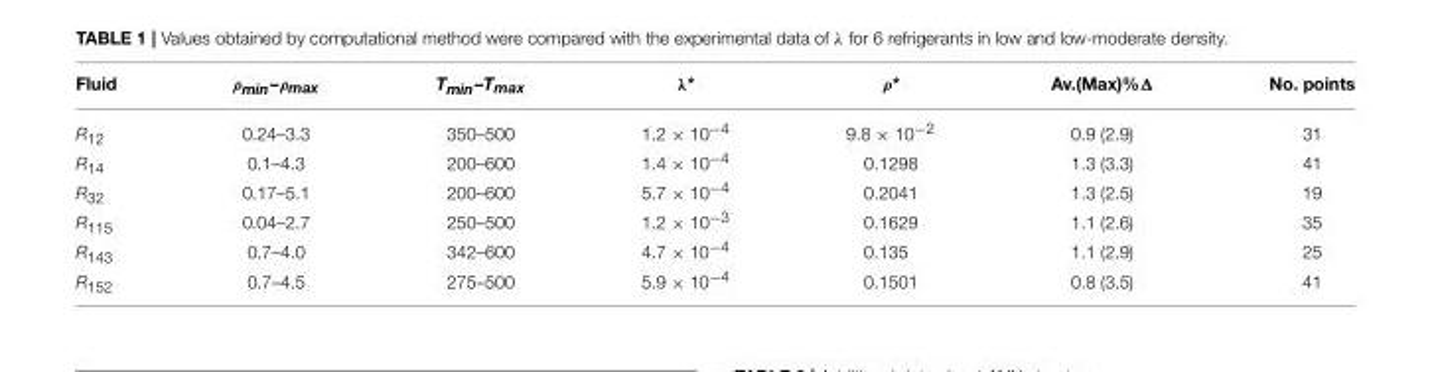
<table><thead><tr><td>Fluid</td><td>ρmin–ρmax</td><td>Tmin–Tmax</td><td>λ*</td><td>ρ*</td><td>Av.(Max)%Δ</td><td>No. points</td></tr></thead><tbody><tr><td>R<sub>12</sub></td><td>0.24–3.3</td><td>350–500</td><td>1.2 × 10<sup>−4</sup></td><td>9.8 × 10<sup>−2</sup></td><td>0.9 (2.9)</td><td>31</td></tr><tr><td>R<sub>14</sub></td><td>0.1–4.3</td><td>200–600</td><td>1.4 × 10<sup>−4</sup></td><td>0.1298</td><td>1.3 (3.3)</td><td>41</td></tr><tr><td>R<sub>32</sub></td><td>0.17–5.1</td><td>200–600</td><td>5.7 × 10<sup>−4</sup></td><td>0.2041</td><td>1.3 (2.5)</td><td>19</td></tr><tr><td>R<sub>115</sub></td><td>0.04–2.7</td><td>250–500</td><td>1.2 × 10<sup>−3</sup></td><td>0.1629</td><td>1.1 (2.6)</td><td>35</td></tr><tr><td>R<sub>143</sub></td><td>0.7–4.0</td><td>342–600</td><td>4.7 × 10<sup>−4</sup></td><td>0.135</td><td>1.1 (2.9)</td><td>25</td></tr><tr><td>R<sub>152</sub></td><td>0.7–4.5</td><td>275–500</td><td>5.9 × 10<sup>−4</sup></td><td>0.1501</td><td>0.8 (3.5)</td><td>41</td></tr></tbody></table>